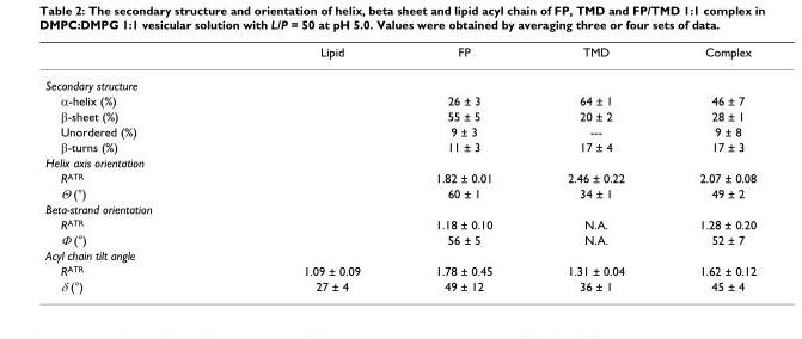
<table><thead><tr><td></td><td>Lipid</td><td>FP</td><td>TMD</td><td>Complex</td></tr></thead><tbody><tr><td colspan="5">Secondary structure</td></tr><tr><td>α-helix (%)</td><td></td><td>26 ± 3</td><td>64 ± 1</td><td>46 ± 7</td></tr><tr><td>β-sheet (%)</td><td></td><td>55 ± 5</td><td>20 ± 2</td><td>28 ± 1</td></tr><tr><td>Unordered (%)</td><td></td><td>9 ± 3</td><td>---</td><td>9 ± 8</td></tr><tr><td>β-turns (%)</td><td></td><td>11 ± 3</td><td>17 ± 4</td><td>17 ± 3</td></tr><tr><td colspan="5">Helix axis orientation</td></tr><tr><td>R<sup>ATR</sup></td><td></td><td>1.82 ± 0.01</td><td>2.46 ± 0.22</td><td>2.07 ± 0.08</td></tr><tr><td>Θ (°)</td><td></td><td>60 ± 1</td><td>34 ± 1</td><td>49 ± 2</td></tr><tr><td colspan="5">Beta-strand orientation</td></tr><tr><td>R<sup>ATR</sup></td><td></td><td>1.18 ± 0.10</td><td>N.A.</td><td>1.28 ± 0.20</td></tr><tr><td>Φ (°)</td><td></td><td>56 ± 5</td><td>N.A.</td><td>52 ± 7</td></tr><tr><td colspan="5">Acyl chain tilt angle</td></tr><tr><td>R<sup>ATR</sup></td><td>1.09 ± 0.09</td><td>1.78 ± 0.45</td><td>1.31 ± 0.04</td><td>1.62 ± 0.12</td></tr><tr><td>δ (°)</td><td>27 ± 4</td><td>49 ± 12</td><td>36 ± 1</td><td>45 ± 4</td></tr></tbody></table>